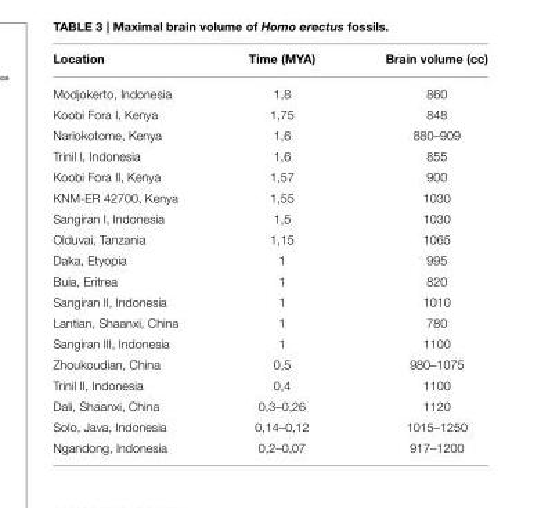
<table><thead><tr><td>Location</td><td>Time (MYA)</td><td>Brain volume (cc)</td></tr></thead><tbody><tr><td>Modjokerto, Indonesia</td><td>1,8</td><td>860</td></tr><tr><td>Koobi Fora I, Kenya</td><td>1,75</td><td>848</td></tr><tr><td>Nariokotome, Kenya</td><td>1,6</td><td>880–909</td></tr><tr><td>Trinil I, Indonesia</td><td>1,6</td><td>855</td></tr><tr><td>Koobi Fora II, Kenya</td><td>1,57</td><td>900</td></tr><tr><td>KNM-ER 42700, Kenya</td><td>1,55</td><td>1030</td></tr><tr><td>Sangiran I, Indonesia</td><td>1,5</td><td>1030</td></tr><tr><td>Olduvai, Tanzania</td><td>1,15</td><td>1065</td></tr><tr><td>Daka, Etyopia</td><td>1</td><td>995</td></tr><tr><td>Buia, Eritrea</td><td>1</td><td>820</td></tr><tr><td>Sangiran II, Indonesia</td><td>1</td><td>1010</td></tr><tr><td>Lantian, Shaanxi, China</td><td>1</td><td>780</td></tr><tr><td>Sangiran III, Indonesia</td><td>1</td><td>1100</td></tr><tr><td>Zhoukoudian, China</td><td>0,5</td><td>980–1075</td></tr><tr><td>Trinil II, Indonesia</td><td>0,4</td><td>1100</td></tr><tr><td>Dali, Shaanxi, China</td><td>0,3–0,26</td><td>1120</td></tr><tr><td>Solo, Java, Indonesia</td><td>0,14–0,12</td><td>1015–1250</td></tr><tr><td>Ngandong, Indonesia</td><td>0,2–0,07</td><td>917–1200</td></tr></tbody></table>